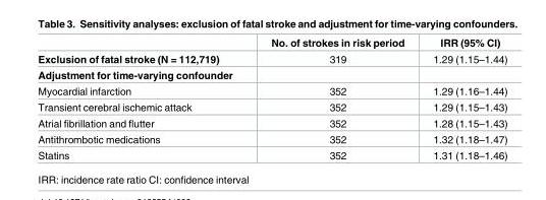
<table><thead><tr><td></td><td>No. of strokes in risk period</td><td>IRR (95% CI)</td></tr></thead><tbody><tr><td>Exclusion of fatal stroke (N = 112,719)</td><td>319</td><td>1.29 (1.15–1.44)</td></tr><tr><td colspan="3">Adjustment for time-varying confounder</td></tr><tr><td>Myocardial infarction</td><td>352</td><td>1.29 (1.16–1.44)</td></tr><tr><td>Transient cerebral ischemic attack</td><td>352</td><td>1.29 (1.15–1.43)</td></tr><tr><td>Atrial fibrillation and flutter</td><td>352</td><td>1.28 (1.15–1.43)</td></tr><tr><td>Antithrombotic medications</td><td>352</td><td>1.32 (1.18–1.47)</td></tr><tr><td>Statins</td><td>352</td><td>1.31 (1.18–1.46)</td></tr></tbody></table>